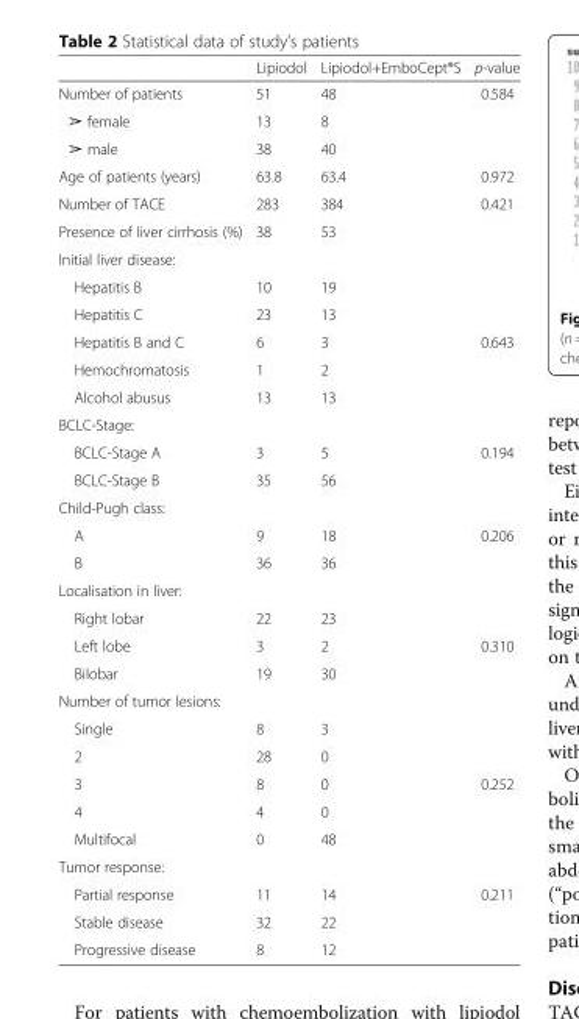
<table><thead><tr><td></td><td>Lipiodol</td><td>Lipiodol+EmboCept®S</td><td>p-value</td></tr></thead><tbody><tr><td>Number of patients</td><td>51</td><td>48</td><td>0.584</td></tr><tr><td>➢ female</td><td>13</td><td>8</td><td></td></tr><tr><td>➢ male</td><td>38</td><td>40</td><td></td></tr><tr><td>Age of patients (years)</td><td>63.8</td><td>63.4</td><td>0.972</td></tr><tr><td>Number of TACE</td><td>283</td><td>384</td><td>0.421</td></tr><tr><td>Presence of liver cirrhosis (%)</td><td>38</td><td>53</td><td></td></tr><tr><td colspan="4">Initial liver disease:</td></tr><tr><td>Hepatitis B</td><td>10</td><td>19</td><td></td></tr><tr><td>Hepatitis C</td><td>23</td><td>13</td><td></td></tr><tr><td>Hepatitis B and C</td><td>6</td><td>3</td><td>0.643</td></tr><tr><td>Hemochromatosis</td><td>1</td><td>2</td><td></td></tr><tr><td>Alcohol abusus</td><td>13</td><td>13</td><td></td></tr><tr><td colspan="4">BCLC-Stage:</td></tr><tr><td>BCLC-Stage A</td><td>3</td><td>5</td><td>0.194</td></tr><tr><td>BCLC-Stage B</td><td>35</td><td>56</td><td></td></tr><tr><td colspan="4">Child-Pugh class:</td></tr><tr><td>A</td><td>9</td><td>18</td><td>0.206</td></tr><tr><td>B</td><td>36</td><td>36</td><td></td></tr><tr><td colspan="4">Localisation in liver:</td></tr><tr><td>Right lobar</td><td>22</td><td>23</td><td></td></tr><tr><td>Left lobe</td><td>3</td><td>2</td><td>0.310</td></tr><tr><td>Bilobar</td><td>19</td><td>30</td><td></td></tr><tr><td colspan="4">Number of tumor lesions:</td></tr><tr><td>Single</td><td>8</td><td>3</td><td></td></tr><tr><td>2</td><td>28</td><td>0</td><td></td></tr><tr><td>3</td><td>8</td><td>0</td><td>0.252</td></tr><tr><td>4</td><td>4</td><td>0</td><td></td></tr><tr><td>Multifocal</td><td>0</td><td>48</td><td></td></tr><tr><td colspan="4">Tumor response:</td></tr><tr><td>Partial response</td><td>11</td><td>14</td><td>0.211</td></tr><tr><td>Stable disease</td><td>32</td><td>22</td><td></td></tr><tr><td>Progressive disease</td><td>8</td><td>12</td><td></td></tr></tbody></table>